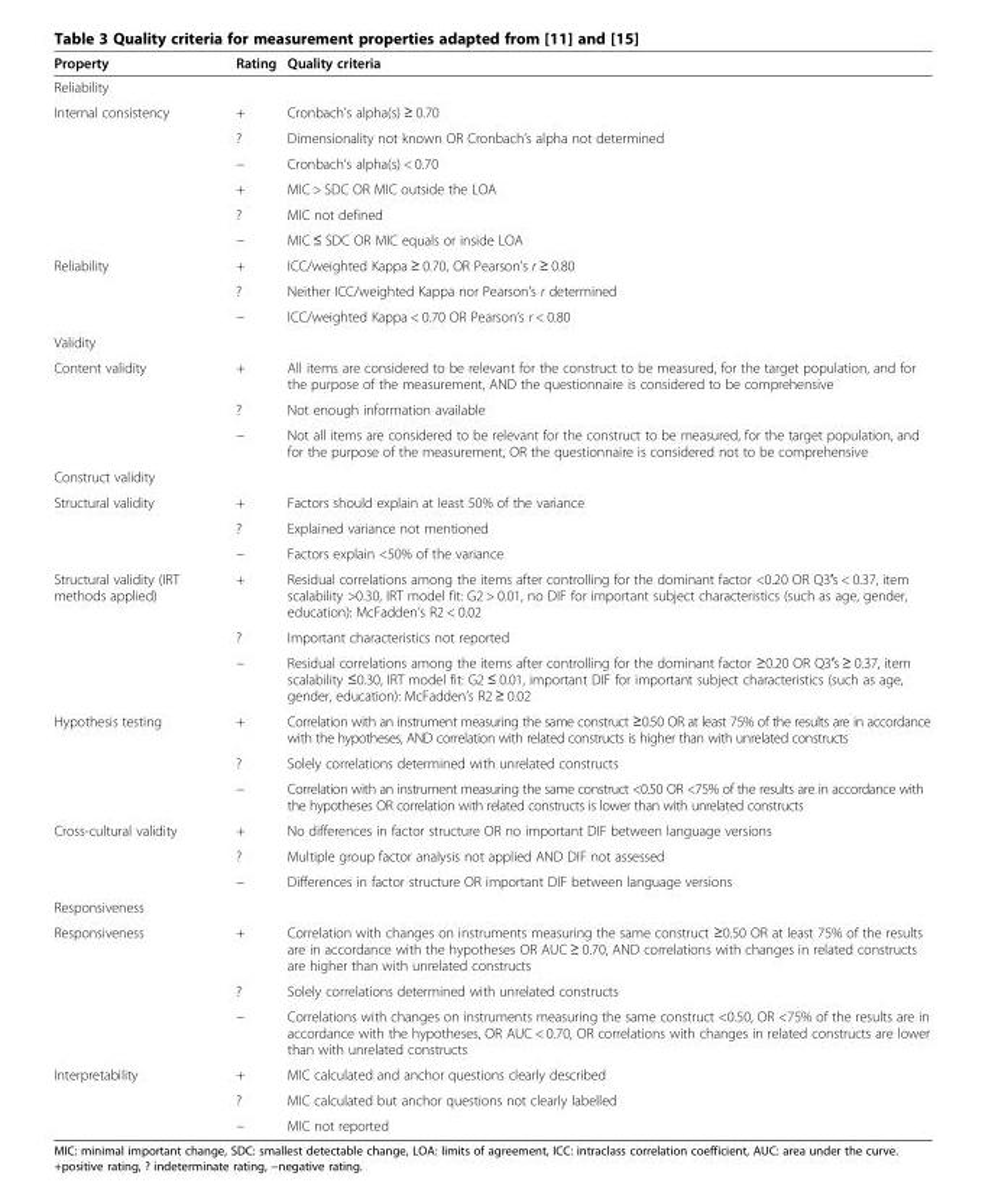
<table><thead><tr><td>Property</td><td>Rating</td><td>Quality criteria</td></tr></thead><tbody><tr><td colspan="3">Reliability</td></tr><tr><td rowspan="6">Internal consistency</td><td>+</td><td>Cronbach’s alpha(s) ≥ 0.70</td></tr><tr><td>?</td><td>Dimensionality not known OR Cronbach’s alpha not determined</td></tr><tr><td>−</td><td>Cronbach’s alpha(s) &lt; 0.70</td></tr><tr><td>+</td><td>MIC &gt; SDC OR MIC outside the LOA</td></tr><tr><td>?</td><td>MIC not defined</td></tr><tr><td>−</td><td>MIC ≤ SDC OR MIC equals or inside LOA</td></tr><tr><td rowspan="3">Reliability</td><td>+</td><td>ICC/weighted Kappa ≥ 0.70, OR Pearson’s r ≥ 0.80</td></tr><tr><td>?</td><td>Neither ICC/weighted Kappa nor Pearson’s r determined</td></tr><tr><td>−</td><td>ICC/weighted Kappa &lt; 0.70 OR Pearson’s r &lt; 0.80</td></tr><tr><td colspan="3">Validity</td></tr><tr><td rowspan="3">Content validity</td><td>+</td><td>All items are considered to be relevant for the construct to be measured, for the target population, and for the purpose of the measurement, AND the questionnaire is considered to be comprehensive</td></tr><tr><td>?</td><td>Not enough information available</td></tr><tr><td>−</td><td>Not all items are considered to be relevant for the construct to be measured, for the target population, and for the purpose of the measurement, OR the questionnaire is considered not to be comprehensive</td></tr><tr><td colspan="3">Construct validity</td></tr><tr><td rowspan="3">Structural validity</td><td>+</td><td>Factors should explain at least 50% of the variance</td></tr><tr><td>?</td><td>Explained variance not mentioned</td></tr><tr><td>−</td><td>Factors explain &lt;50% of the variance</td></tr><tr><td rowspan="3">Structural validity (IRT methods applied)</td><td>+</td><td>Residual correlations among the items after controlling for the dominant factor &lt;0.20 OR Q3′s &lt; 0.37, item scalability &gt;0.30, IRT model fit: G2 &gt; 0.01, no DIF for important subject characteristics (such as age, gender, education): McFadden’s R2 &lt; 0.02</td></tr><tr><td>?</td><td>Important characteristics not reported</td></tr><tr><td>−</td><td>Residual correlations among the items after controlling for the dominant factor ≥0.20 OR Q3′s ≥ 0.37, item scalability ≤0.30, IRT model fit: G2 ≤ 0.01, important DIF for important subject characteristics (such as age, gender, education): McFadden’s R2 ≥ 0.02</td></tr><tr><td rowspan="3">Hypothesis testing</td><td>+</td><td>Correlation with an instrument measuring the same construct ≥0.50 OR at least 75% of the results are in accordance with the hypotheses, AND correlation with related constructs is higher than with unrelated constructs</td></tr><tr><td>?</td><td>Solely correlations determined with unrelated constructs</td></tr><tr><td>−</td><td>Correlation with an instrument measuring the same construct &lt;0.50 OR &lt;75% of the results are in accordance with the hypotheses OR correlation with related constructs is lower than with unrelated constructs</td></tr><tr><td rowspan="3">Cross-cultural validity</td><td>+</td><td>No differences in factor structure OR no important DIF between language versions</td></tr><tr><td>?</td><td>Multiple group factor analysis not applied AND DIF not assessed</td></tr><tr><td>−</td><td>Differences in factor structure OR important DIF between language versions</td></tr><tr><td colspan="3">Responsiveness</td></tr><tr><td rowspan="3">Responsiveness</td><td>+</td><td>Correlation with changes on instruments measuring the same construct ≥0.50 OR at least 75% of the results are in accordance with the hypotheses OR AUC ≥ 0.70, AND correlations with changes in related constructs are higher than with unrelated constructs</td></tr><tr><td>?</td><td>Solely correlations determined with unrelated constructs</td></tr><tr><td>−</td><td>Correlations with changes on instruments measuring the same construct &lt;0.50, OR &lt;75% of the results are in accordance with the hypotheses, OR AUC &lt; 0.70, OR correlations with changes in related constructs are lower than with unrelated constructs</td></tr><tr><td rowspan="3">Interpretability</td><td>+</td><td>MIC calculated and anchor questions clearly described</td></tr><tr><td>?</td><td>MIC calculated but anchor questions not clearly labelled</td></tr><tr><td>−</td><td>MIC not reported</td></tr></tbody></table>